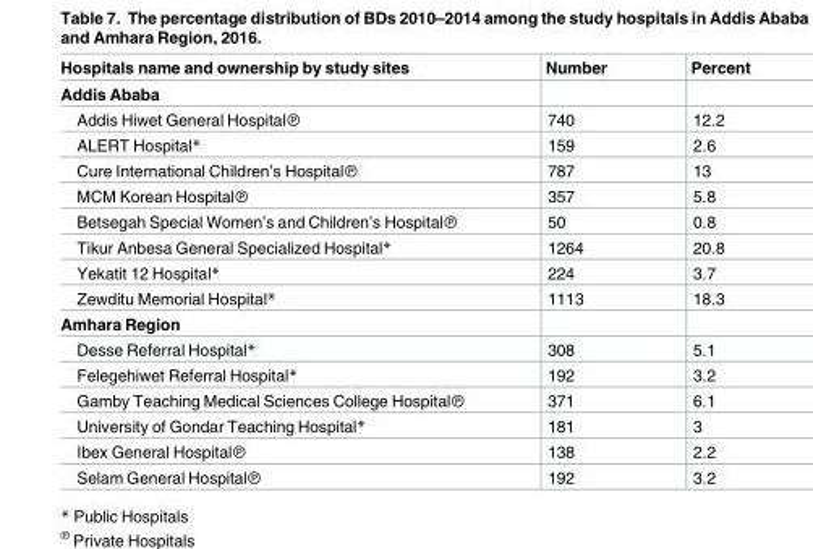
<table><thead><tr><td>Hospitals name and ownership by study sites</td><td>Number</td><td>Percent</td></tr></thead><tbody><tr><td colspan="3">Addis Ababa</td></tr><tr><td>Addis Hiwet General Hospital℗</td><td>740</td><td>12.2</td></tr><tr><td>ALERT Hospital*</td><td>159</td><td>2.6</td></tr><tr><td>Cure International Children’s Hospital℗</td><td>787</td><td>13</td></tr><tr><td>MCM Korean Hospital℗</td><td>357</td><td>5.8</td></tr><tr><td>Betsegah Special Women’s and Children’s Hospital℗</td><td>50</td><td>0.8</td></tr><tr><td>Tikur Anbesa General Specialized Hospital*</td><td>1264</td><td>20.8</td></tr><tr><td>Yekatit 12 Hospital*</td><td>224</td><td>3.7</td></tr><tr><td>Zewditu Memorial Hospital*</td><td>1113</td><td>18.3</td></tr><tr><td colspan="3">Amhara Region</td></tr><tr><td>Desse Referral Hospital*</td><td>308</td><td>5.1</td></tr><tr><td>Felegehiwet Referral Hospital*</td><td>192</td><td>3.2</td></tr><tr><td>Gamby Teaching Medical Sciences College Hospital℗</td><td>371</td><td>6.1</td></tr><tr><td>University of Gondar Teaching Hospital*</td><td>181</td><td>3</td></tr><tr><td>Ibex General Hospital℗</td><td>138</td><td>2.2</td></tr><tr><td>Selam General Hospital℗</td><td>192</td><td>3.2</td></tr></tbody></table>